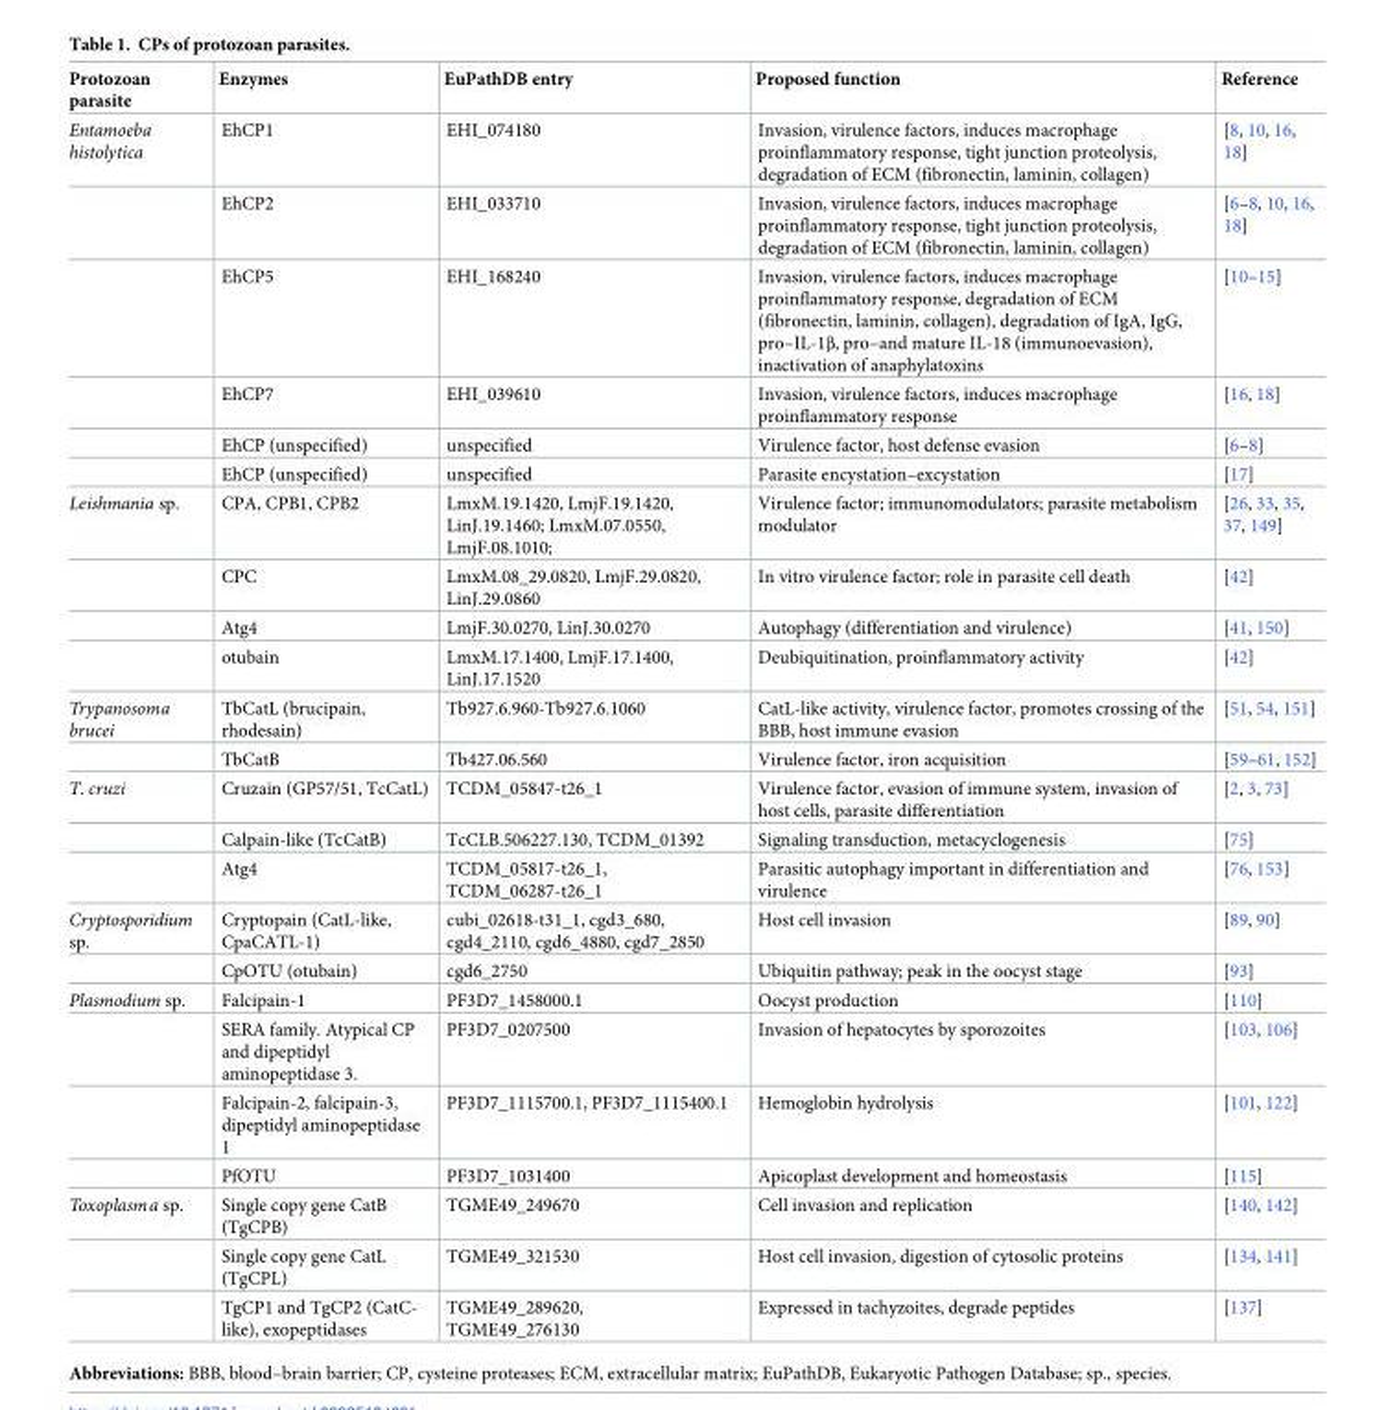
<table><thead><tr><td>Protozoan parasite</td><td>Enzymes</td><td>EuPathDB entry</td><td>Proposed function</td><td>Reference</td></tr></thead><tbody><tr><td rowspan="6">Entamoeba histolytica</td><td>EhCP1</td><td>EHI_074180</td><td>Invasion, virulence factors, induces macrophage proinflammatory response, tight junction proteolysis, degradation of ECM (fibronectin, laminin, collagen)</td><td>[8, 10, 16, 18]</td></tr><tr><td>EhCP2</td><td>EHI_033710</td><td>Invasion, virulence factors, induces macrophage proinflammatory response, tight junction proteolysis, degradation of ECM (fibronectin, laminin, collagen)</td><td>[6–8, 10, 16, 18]</td></tr><tr><td>EhCP5</td><td>EHI_168240</td><td>Invasion, virulence factors, induces macrophage proinflammatory response, degradation of ECM (fibronectin, laminin, collagen), degradation of IgA, IgG, pro–IL-1β, pro–and mature IL-18 (immunoevasion), inactivation of anaphylatoxins</td><td>[10–15]</td></tr><tr><td>EhCP7</td><td>EHI_039610</td><td>Invasion, virulence factors, induces macrophage proinflammatory response</td><td>[16, 18]</td></tr><tr><td>EhCP (unspecified)</td><td>unspecified</td><td>Virulence factor, host defense evasion</td><td>[6–8]</td></tr><tr><td>EhCP (unspecified)</td><td>unspecified</td><td>Parasite encystation–excystation</td><td>[17]</td></tr><tr><td rowspan="4">Leishmania sp.</td><td>CPA, CPB1, CPB2</td><td>LmxM.19.1420, LmjF.19.1420, LinJ.19.1460; LmxM.07.0550, LmjF.08.1010;</td><td>Virulence factor; immunomodulators; parasite metabolism modulator</td><td>[26, 33, 35, 37, 149]</td></tr><tr><td>CPC</td><td>LmxM.08_29.0820, LmjF.29.0820, LinJ.29.0860</td><td>In vitro virulence factor; role in parasite cell death</td><td>[42]</td></tr><tr><td>Atg4</td><td>LmjF.30.0270, LinJ.30.0270</td><td>Autophagy (differentiation and virulence)</td><td>[41, 150]</td></tr><tr><td>otubain</td><td>LmxM.17.1400, LmjF.17.1400, LinJ.17.1520</td><td>Deubiquitination, proinflammatory activity</td><td>[42]</td></tr><tr><td rowspan="2">Trypanosoma brucei</td><td>TbCatL (brucipain, rhodesain)</td><td>Tb927.6.960-Tb927.6.1060</td><td>CatL-like activity, virulence factor, promotes crossing of the BBB, host immune evasion</td><td>[51, 54, 151]</td></tr><tr><td>TbCatB</td><td>Tb427.06.560</td><td>Virulence factor, iron acquisition</td><td>[59–61, 152]</td></tr><tr><td rowspan="3">T. cruzi</td><td>Cruzain (GP57/51, TcCatL)</td><td>TCDM_05847-t26_1</td><td>Virulence factor, evasion of immune system, invasion of host cells, parasite differentiation</td><td>[2, 3, 73]</td></tr><tr><td>Calpain-like (TcCatB)</td><td>TcCLB.506227.130, TCDM_01392</td><td>Signaling transduction, metacyclogenesis</td><td>[75]</td></tr><tr><td>Atg4</td><td>TCDM_05817-t26_1, TCDM_06287-t26_1</td><td>Parasitic autophagy important in differentiation and virulence</td><td>[76, 153]</td></tr><tr><td rowspan="2">Cryptosporidium sp.</td><td>Cryptopain (CatL-like, CpaCATL-1)</td><td>cubi_02618-t31_1, cgd3_680, cgd4_2110, cgd6_4880, cgd7_2850</td><td>Host cell invasion</td><td>[89, 90]</td></tr><tr><td>CpOTU (otubain)</td><td>cgd6_2750</td><td>Ubiquitin pathway; peak in the oocyst stage</td><td>[93]</td></tr><tr><td rowspan="4">Plasmodium sp.</td><td>Falcipain-1</td><td>PF3D7_1458000.1</td><td>Oocyst production</td><td>[110]</td></tr><tr><td>SERA family. Atypical CP and dipeptidyl aminopeptidase 3.</td><td>PF3D7_0207500</td><td>Invasion of hepatocytes by sporozoites</td><td>[103, 106]</td></tr><tr><td>Falcipain-2, falcipain-3, dipeptidyl aminopeptidase 1</td><td>PF3D7_1115700.1, PF3D7_1115400.1</td><td>Hemoglobin hydrolysis</td><td>[101, 122]</td></tr><tr><td>PfOTU</td><td>PF3D7_1031400</td><td>Apicoplast development and homeostasis</td><td>[115]</td></tr><tr><td rowspan="3">Toxoplasma sp.</td><td>Single copy gene CatB (TgCPB)</td><td>TGME49_249670</td><td>Cell invasion and replication</td><td>[140, 142]</td></tr><tr><td>Single copy gene CatL (TgCPL)</td><td>TGME49_321530</td><td>Host cell invasion, digestion of cytosolic proteins</td><td>[134, 141]</td></tr><tr><td>TgCP1 and TgCP2 (CatC- like), exopeptidases</td><td>TGME49_289620, TGME49_276130</td><td>Expressed in tachyzoites, degrade peptides</td><td>[137]</td></tr></tbody></table>